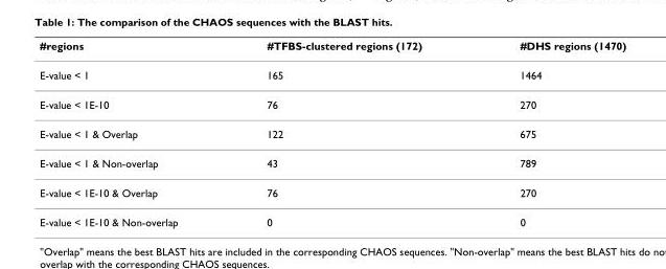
<table><thead><tr><td>#regions</td><td>#TFBS-clustered regions (172)</td><td>#DHS regions (1470)</td></tr></thead><tbody><tr><td>E-value &lt; 1</td><td>165</td><td>1464</td></tr><tr><td>E-value &lt; 1E-10</td><td>76</td><td>270</td></tr><tr><td>E-value &lt; 1 &amp; Overlap</td><td>122</td><td>675</td></tr><tr><td>E-value &lt; 1 &amp; Non-overlap</td><td>43</td><td>789</td></tr><tr><td>E-value &lt; 1E-10 &amp; Overlap</td><td>76</td><td>270</td></tr><tr><td>E-value &lt; 1E-10 &amp; Non-overlap</td><td>0</td><td>0</td></tr></tbody></table>